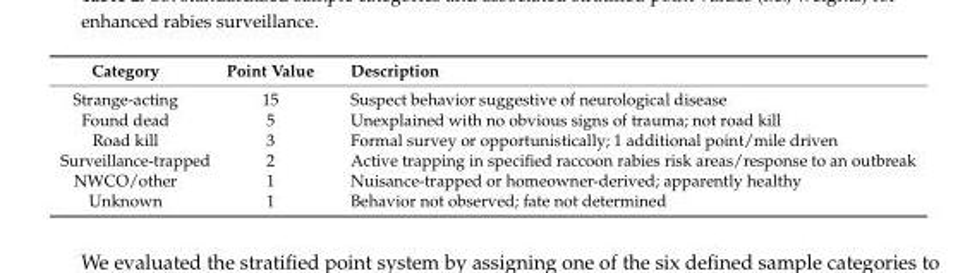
<table><thead><tr><td>Category</td><td>Point Value</td><td>Description</td></tr></thead><tbody><tr><td>Strange-acting</td><td>15</td><td>Suspect behavior suggestive of neurological disease</td></tr><tr><td>Found dead</td><td>5</td><td>Unexplained with no obvious signs of trauma; not road kill</td></tr><tr><td>Road kill</td><td>3</td><td>Formal survey or opportunistically; 1 additional point/mile driven</td></tr><tr><td>Surveillance-trapped</td><td>2</td><td>Active trapping in specified raccoon rabies risk areas/response to an outbreak</td></tr><tr><td>NWCO/other</td><td>1</td><td>Nuisance-trapped or homeowner-derived; apparently healthy</td></tr><tr><td>Unknown</td><td>1</td><td>Behavior not observed; fate not determined</td></tr></tbody></table>